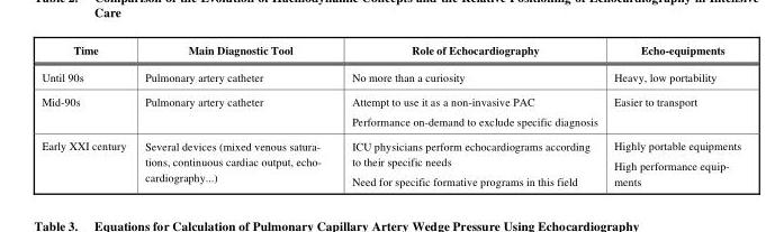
<table><thead><tr><td>Time</td><td>Main Diagnostic Tool</td><td>Role of Echocardiography</td><td>Echo-equipments</td></tr></thead><tbody><tr><td>Until 90s</td><td>Pulmonary artery catheter</td><td>No more than a curiosity</td><td>Heavy, low portability</td></tr><tr><td>Mid-90s</td><td>Pulmonary artery catheter</td><td>Attempt to use it as a non-invasive PAC Performance on-demand to exclude specific diagnosis</td><td>Easier to transport</td></tr><tr><td>Early XXI century</td><td>Several devices (mixed venous satura- tions, continuous cardiac output, echo- cardiography...)</td><td>ICU physicians perform echocardiograms according to their specific needs Need for specific formative programs in this field</td><td>Highly portable equipments High performance equip- ments</td></tr></tbody></table>